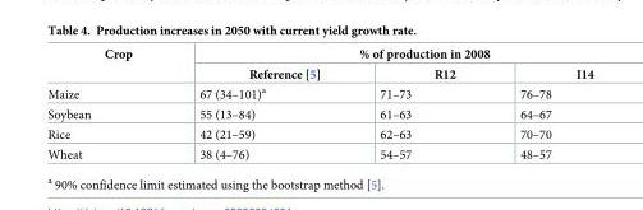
<table><thead><tr><td rowspan="2">Crop</td><td colspan="3">% of production in 2008</td></tr><tr><td>Reference [5]</td><td>R12</td><td>I14</td></tr></thead><tbody><tr><td>Maize</td><td>67 (34–101)<sup>a</sup></td><td>71–73</td><td>76–78</td></tr><tr><td>Soybean</td><td>55 (13–84)</td><td>61–63</td><td>64–67</td></tr><tr><td>Rice</td><td>42 (21–59)</td><td>62–63</td><td>70–70</td></tr><tr><td>Wheat</td><td>38 (4–76)</td><td>54–57</td><td>48–57</td></tr></tbody></table>